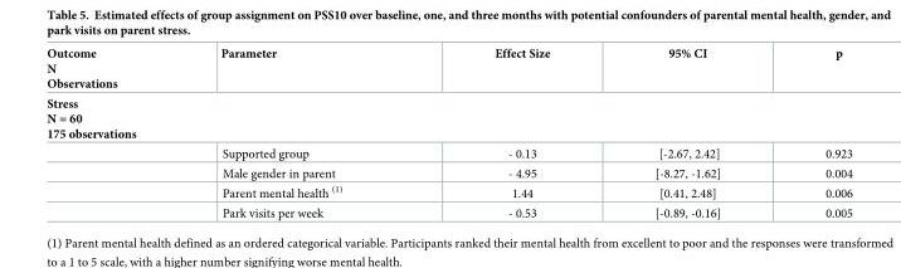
<table><thead><tr><td>Outcome N Observations</td><td>Parameter</td><td>Effect Size</td><td>95% CI</td><td>p</td></tr></thead><tbody><tr><td colspan="5">Stress N = 60 175 observations</td></tr><tr><td></td><td>Supported group</td><td>- 0.13</td><td>[-2.67, 2.42]</td><td>0.923</td></tr><tr><td></td><td>Male gender in parent</td><td>- 4.95</td><td>[-8.27, -1.62]</td><td>0.004</td></tr><tr><td></td><td>Parent mental health <sup>(1)</sup></td><td>1.44</td><td>[0.41, 2.48]</td><td>0.006</td></tr><tr><td></td><td>Park visits per week</td><td>- 0.53</td><td>[-0.89, -0.16]</td><td>0.005</td></tr></tbody></table>